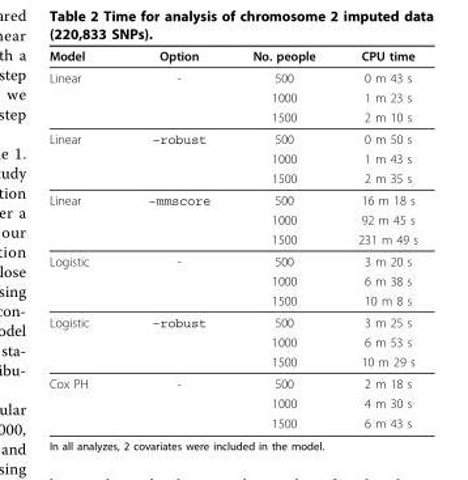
<table><thead><tr><td>Model</td><td>Option</td><td>No. people</td><td>CPU time</td></tr></thead><tbody><tr><td rowspan="3">Linear</td><td>-</td><td>500</td><td>0 m 43 s</td></tr><tr><td></td><td>1000</td><td>1 m 23 s</td></tr><tr><td></td><td>1500</td><td>2 m 10 s</td></tr><tr><td rowspan="3">Linear</td><td>–robust</td><td>500</td><td>0 m 50 s</td></tr><tr><td></td><td>1000</td><td>1 m 43 s</td></tr><tr><td></td><td>1500</td><td>2 m 35 s</td></tr><tr><td rowspan="3">Linear</td><td>–mmscore</td><td>500</td><td>16 m 18 s</td></tr><tr><td></td><td>1000</td><td>92 m 45 s</td></tr><tr><td></td><td>1500</td><td>231 m 49 s</td></tr><tr><td rowspan="3">Logistic</td><td>-</td><td>500</td><td>3 m 20 s</td></tr><tr><td></td><td>1000</td><td>6 m 38 s</td></tr><tr><td></td><td>1500</td><td>10 m 8 s</td></tr><tr><td rowspan="3">Logistic</td><td>–robust</td><td>500</td><td>3 m 25 s</td></tr><tr><td></td><td>1000</td><td>6 m 53 s</td></tr><tr><td></td><td>1500</td><td>10 m 29 s</td></tr><tr><td rowspan="3">Cox PH</td><td>-</td><td>500</td><td>2 m 18 s</td></tr><tr><td></td><td>1000</td><td>4 m 30 s</td></tr><tr><td></td><td>1500</td><td>6 m 43 s</td></tr></tbody></table>